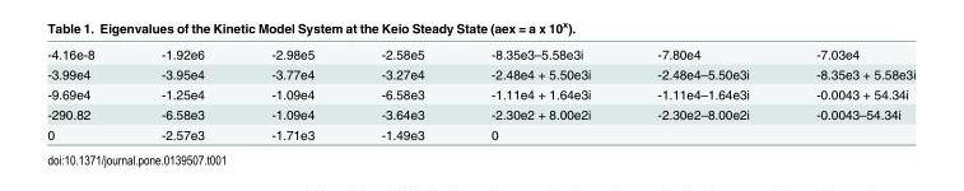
<table><tbody><tr><td>-4.16e-8</td><td>-1.92e6</td><td>-2.98e5</td><td>-2.58e5</td><td>-8.35e3–5.58e3i</td><td>-7.80e4</td><td>-7.03e4</td></tr><tr><td>-3.99e4</td><td>-3.95e4</td><td>-3.77e4</td><td>-3.27e4</td><td>-2.48e4 + 5.50e3i</td><td>-2.48e4–5.50e3i</td><td>-8.35e3 + 5.58e3i</td></tr><tr><td>-9.69e4</td><td>-1.25e4</td><td>-1.09e4</td><td>-6.58e3</td><td>-1.11e4 + 1.64e3i</td><td>-1.11e4–1.64e3i</td><td>-0.0043 + 54.34i</td></tr><tr><td>-290.82</td><td>-6.58e3</td><td>-1.09e4</td><td>-3.64e3</td><td>-2.30e2 + 8.00e2i</td><td>-2.30e2–8.00e2i</td><td>-0.0043–54.34i</td></tr><tr><td>0</td><td>-2.57e3</td><td>-1.71e3</td><td>-1.49e3</td><td>0</td><td colspan="2"></td></tr></tbody></table>